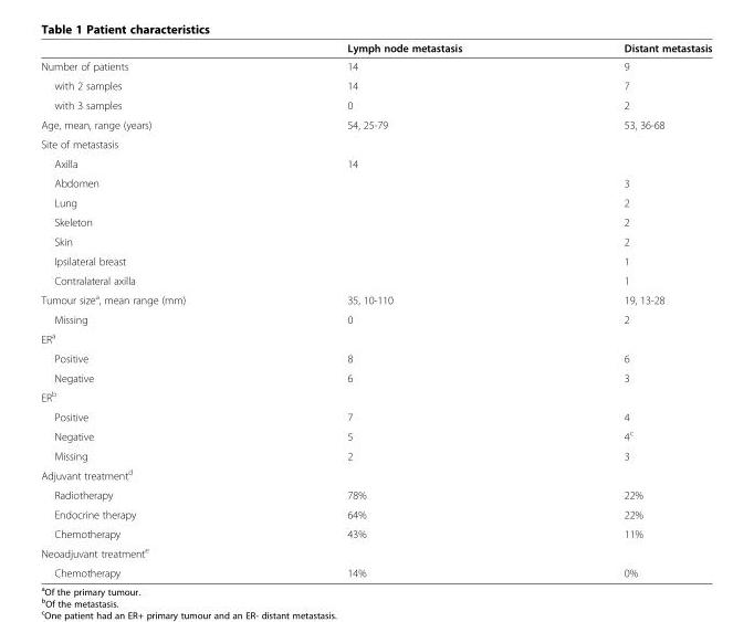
<table><thead><tr><td></td><td>Lymph node metastasis</td><td>Distant metastasis</td></tr></thead><tbody><tr><td>Number of patients</td><td>14</td><td>9</td></tr><tr><td>with 2 samples</td><td>14</td><td>7</td></tr><tr><td>with 3 samples</td><td>0</td><td>2</td></tr><tr><td>Age, mean, range (years)</td><td>54, 25-79</td><td>53, 36-68</td></tr><tr><td colspan="3">Site of metastasis</td></tr><tr><td>Axilla</td><td>14</td><td></td></tr><tr><td>Abdomen</td><td></td><td>3</td></tr><tr><td>Lung</td><td></td><td>2</td></tr><tr><td>Skeleton</td><td></td><td>2</td></tr><tr><td>Skin</td><td></td><td>2</td></tr><tr><td>Ipsilateral breast</td><td></td><td>1</td></tr><tr><td>Contralateral axilla</td><td></td><td>1</td></tr><tr><td>Tumour size<sup>a</sup>, mean range (mm)</td><td>35, 10-110</td><td>19, 13-28</td></tr><tr><td>Missing</td><td>0</td><td>2</td></tr><tr><td colspan="3">ER<sup>a</sup></td></tr><tr><td>Positive</td><td>8</td><td>6</td></tr><tr><td>Negative</td><td>6</td><td>3</td></tr><tr><td colspan="3">ER<sup>b</sup></td></tr><tr><td>Positive</td><td>7</td><td>4</td></tr><tr><td>Negative</td><td>5</td><td>4<sup>c</sup></td></tr><tr><td>Missing</td><td>2</td><td>3</td></tr><tr><td colspan="3">Adjuvant treatment<sup>d</sup></td></tr><tr><td>Radiotherapy</td><td>78%</td><td>22%</td></tr><tr><td>Endocrine therapy</td><td>64%</td><td>22%</td></tr><tr><td>Chemotherapy</td><td>43%</td><td>11%</td></tr><tr><td colspan="3">Neoadjuvant treatment<sup>e</sup></td></tr><tr><td>Chemotherapy</td><td>14%</td><td>0%</td></tr></tbody></table>